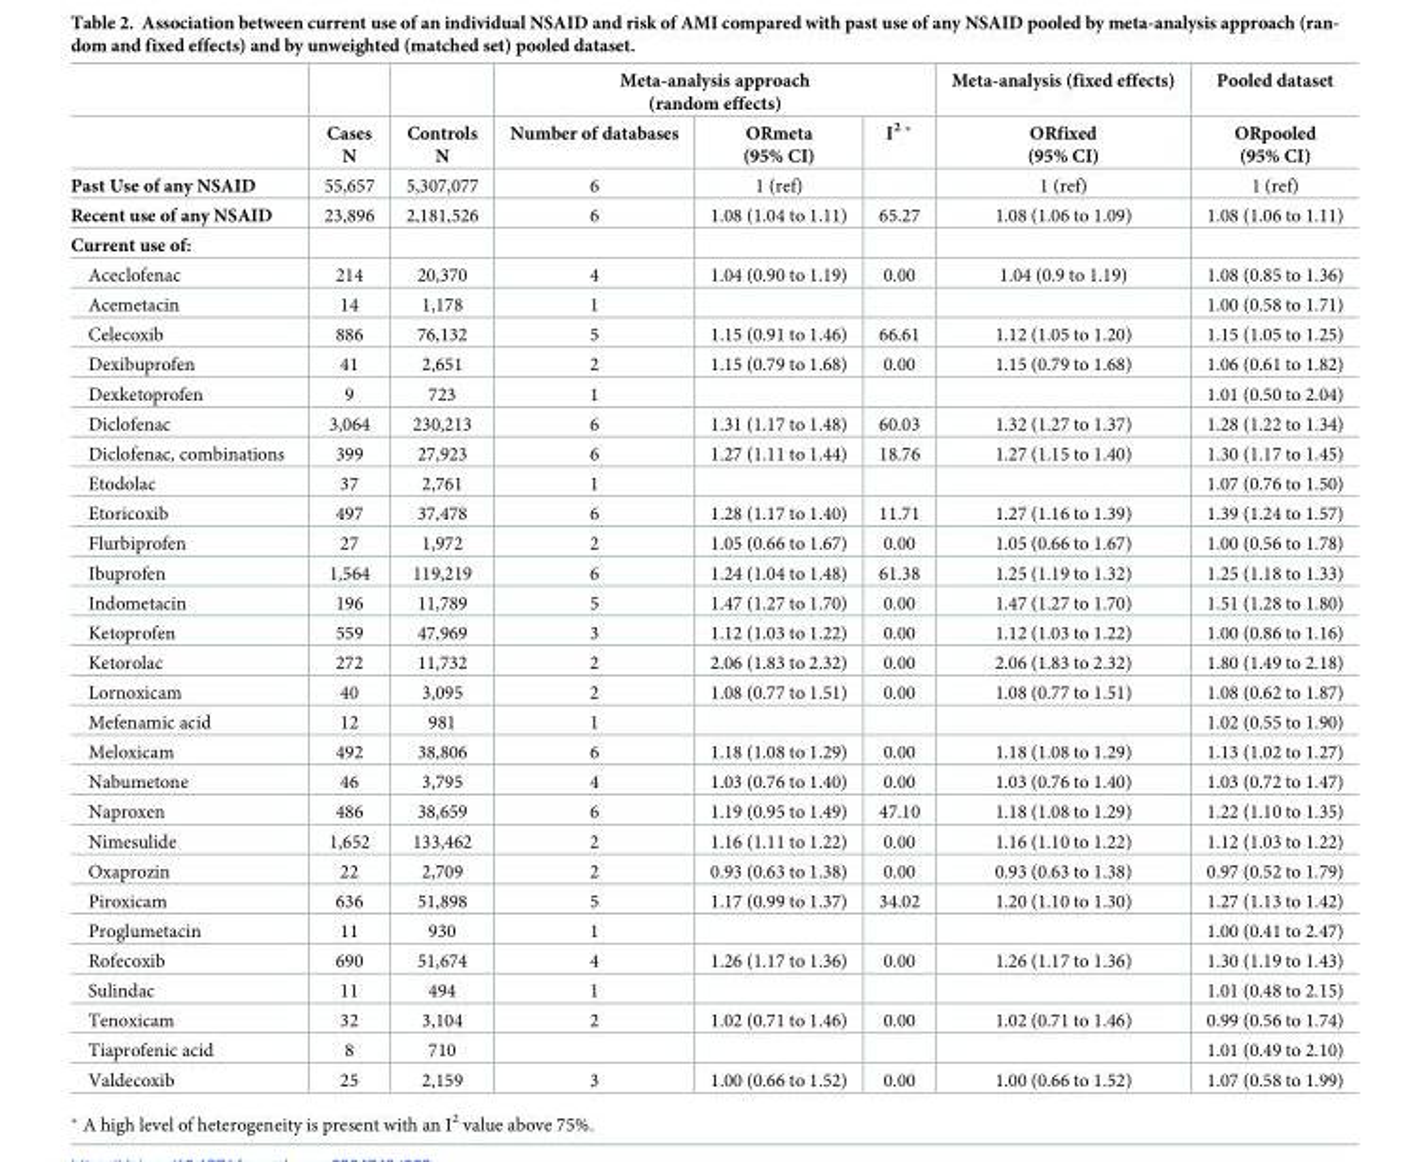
<table><thead><tr><td rowspan="2"></td><td rowspan="2">Cases N</td><td rowspan="2">Controls N</td><td colspan="3">Meta-analysis approach (random effects)</td><td rowspan="2">Meta-analysis (fixed effects) ORfixed (95% CI)</td><td rowspan="2">Pooled dataset ORpooled (95% CI)</td></tr><tr><td>Number of databases</td><td>ORmeta (95% CI)</td><td>I<sup>2</sup> *</td></tr></thead><tbody><tr><td>Past Use of any NSAID</td><td>55,657</td><td>5,307,077</td><td>6</td><td>1 (ref)</td><td></td><td>1 (ref)</td><td>1 (ref)</td></tr><tr><td>Recent use of any NSAID</td><td>23,896</td><td>2,181,526</td><td>6</td><td>1.08 (1.04 to 1.11)</td><td>65.27</td><td>1.08 (1.06 to 1.09)</td><td>1.08 (1.06 to 1.11)</td></tr><tr><td colspan="8">Current use of:</td></tr><tr><td>Aceclofenac</td><td>214</td><td>20,370</td><td>4</td><td>1.04 (0.90 to 1.19)</td><td>0.00</td><td>1.04 (0.9 to 1.19)</td><td>1.08 (0.85 to 1.36)</td></tr><tr><td>Acemetacin</td><td>14</td><td>1,178</td><td>1</td><td></td><td></td><td></td><td>1.00 (0.58 to 1.71)</td></tr><tr><td>Celecoxib</td><td>886</td><td>76,132</td><td>5</td><td>1.15 (0.91 to 1.46)</td><td>66.61</td><td>1.12 (1.05 to 1.20)</td><td>1.15 (1.05 to 1.25)</td></tr><tr><td>Dexibuprofen</td><td>41</td><td>2,651</td><td>2</td><td>1.15 (0.79 to 1.68)</td><td>0.00</td><td>1.15 (0.79 to 1.68)</td><td>1.06 (0.61 to 1.82)</td></tr><tr><td>Dexketoprofen</td><td>9</td><td>723</td><td>1</td><td></td><td></td><td></td><td>1.01 (0.50 to 2.04)</td></tr><tr><td>Diclofenac</td><td>3,064</td><td>230,213</td><td>6</td><td>1.31 (1.17 to 1.48)</td><td>60.03</td><td>1.32 (1.27 to 1.37)</td><td>1.28 (1.22 to 1.34)</td></tr><tr><td>Diclofenac, combinations</td><td>399</td><td>27,923</td><td>6</td><td>1.27 (1.11 to 1.44)</td><td>18.76</td><td>1.27 (1.15 to 1.40)</td><td>1.30 (1.17 to 1.45)</td></tr><tr><td>Etodolac</td><td>37</td><td>2,761</td><td>1</td><td></td><td></td><td></td><td>1.07 (0.76 to 1.50)</td></tr><tr><td>Etoricoxib</td><td>497</td><td>37,478</td><td>6</td><td>1.28 (1.17 to 1.40)</td><td>11.71</td><td>1.27 (1.16 to 1.39)</td><td>1.39 (1.24 to 1.57)</td></tr><tr><td>Flurbiprofen</td><td>27</td><td>1,972</td><td>2</td><td>1.05 (0.66 to 1.67)</td><td>0.00</td><td>1.05 (0.66 to 1.67)</td><td>1.00 (0.56 to 1.78)</td></tr><tr><td>Ibuprofen</td><td>1,564</td><td>119,219</td><td>6</td><td>1.24 (1.04 to 1.48)</td><td>61.38</td><td>1.25 (1.19 to 1.32)</td><td>1.25 (1.18 to 1.33)</td></tr><tr><td>Indometacin</td><td>196</td><td>11,789</td><td>5</td><td>1.47 (1.27 to 1.70)</td><td>0.00</td><td>1.47 (1.27 to 1.70)</td><td>1.51 (1.28 to 1.80)</td></tr><tr><td>Ketoprofen</td><td>559</td><td>47,969</td><td>3</td><td>1.12 (1.03 to 1.22)</td><td>0.00</td><td>1.12 (1.03 to 1.22)</td><td>1.00 (0.86 to 1.16)</td></tr><tr><td>Ketorolac</td><td>272</td><td>11,732</td><td>2</td><td>2.06 (1.83 to 2.32)</td><td>0.00</td><td>2.06 (1.83 to 2.32)</td><td>1.80 (1.49 to 2.18)</td></tr><tr><td>Lornoxicam</td><td>40</td><td>3,095</td><td>2</td><td>1.08 (0.77 to 1.51)</td><td>0.00</td><td>1.08 (0.77 to 1.51)</td><td>1.08 (0.62 to 1.87)</td></tr><tr><td>Mefenamic acid</td><td>12</td><td>981</td><td>1</td><td></td><td></td><td></td><td>1.02 (0.55 to 1.90)</td></tr><tr><td>Meloxicam</td><td>492</td><td>38,806</td><td>6</td><td>1.18 (1.08 to 1.29)</td><td>0.00</td><td>1.18 (1.08 to 1.29)</td><td>1.13 (1.02 to 1.27)</td></tr><tr><td>Nabumetone</td><td>46</td><td>3,795</td><td>4</td><td>1.03 (0.76 to 1.40)</td><td>0.00</td><td>1.03 (0.76 to 1.40)</td><td>1.03 (0.72 to 1.47)</td></tr><tr><td>Naproxen</td><td>486</td><td>38,659</td><td>6</td><td>1.19 (0.95 to 1.49)</td><td>47.10</td><td>1.18 (1.08 to 1.29)</td><td>1.22 (1.10 to 1.35)</td></tr><tr><td>Nimesulide</td><td>1,652</td><td>133,462</td><td>2</td><td>1.16 (1.11 to 1.22)</td><td>0.00</td><td>1.16 (1.10 to 1.22)</td><td>1.12 (1.03 to 1.22)</td></tr><tr><td>Oxaprozin</td><td>22</td><td>2,709</td><td>2</td><td>0.93 (0.63 to 1.38)</td><td>0.00</td><td>0.93 (0.63 to 1.38)</td><td>0.97 (0.52 to 1.79)</td></tr><tr><td>Piroxicam</td><td>636</td><td>51,898</td><td>5</td><td>1.17 (0.99 to 1.37)</td><td>34.02</td><td>1.20 (1.10 to 1.30)</td><td>1.27 (1.13 to 1.42)</td></tr><tr><td>Proglumetacin</td><td>11</td><td>930</td><td>1</td><td></td><td></td><td></td><td>1.00 (0.41 to 2.47)</td></tr><tr><td>Rofecoxib</td><td>690</td><td>51,674</td><td>4</td><td>1.26 (1.17 to 1.36)</td><td>0.00</td><td>1.26 (1.17 to 1.36)</td><td>1.30 (1.19 to 1.43)</td></tr><tr><td>Sulindac</td><td>11</td><td>494</td><td>1</td><td></td><td></td><td></td><td>1.01 (0.48 to 2.15)</td></tr><tr><td>Tenoxicam</td><td>32</td><td>3,104</td><td>2</td><td>1.02 (0.71 to 1.46)</td><td>0.00</td><td>1.02 (0.71 to 1.46)</td><td>0.99 (0.56 to 1.74)</td></tr><tr><td>Tiaprofenic acid</td><td>8</td><td>710</td><td></td><td></td><td></td><td></td><td>1.01 (0.49 to 2.10)</td></tr><tr><td>Valdecoxib</td><td>25</td><td>2,159</td><td>3</td><td>1.00 (0.66 to 1.52)</td><td>0.00</td><td>1.00 (0.66 to 1.52)</td><td>1.07 (0.58 to 1.99)</td></tr></tbody></table>